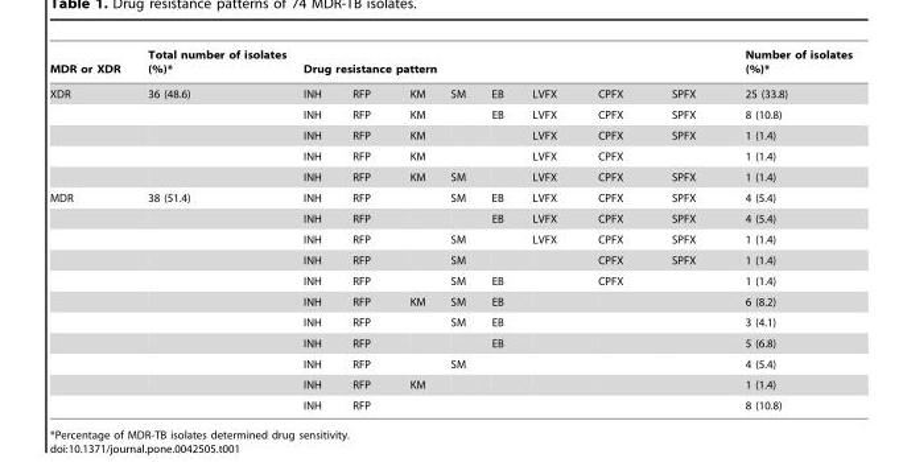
<table><thead><tr><td rowspan="2">MDR or XDR XDR</td><td rowspan="2">Total number of isolates (%)* 36 (48.6)</td><td colspan="8">Drug resistance pattern</td><td rowspan="2">Number of isolates (%)* 25 (33.8)</td></tr><tr><td>INH</td><td>RFP</td><td>KM</td><td>SM</td><td>EB</td><td>LVFX</td><td>CPFX</td><td>SPFX</td></tr></thead><tbody><tr><td></td><td></td><td>INH</td><td>RFP</td><td>KM</td><td></td><td>EB</td><td>LVFX</td><td>CPFX</td><td>SPFX</td><td>8 (10.8)</td></tr><tr><td></td><td></td><td>INH</td><td>RFP</td><td>KM</td><td></td><td></td><td>LVFX</td><td>CPFX</td><td>SPFX</td><td>1 (1.4)</td></tr><tr><td></td><td></td><td>INH</td><td>RFP</td><td>KM</td><td></td><td></td><td>LVFX</td><td>CPFX</td><td></td><td>1 (1.4)</td></tr><tr><td></td><td></td><td>INH</td><td>RFP</td><td>KM</td><td>SM</td><td></td><td>LVFX</td><td>CPFX</td><td>SPFX</td><td>1 (1.4)</td></tr><tr><td rowspan="11">MDR</td><td>38 (51.4)</td><td>INH</td><td>RFP</td><td></td><td>SM</td><td>EB</td><td>LVFX</td><td>CPFX</td><td>SPFX</td><td>4 (5.4)</td></tr><tr><td></td><td>INH</td><td>RFP</td><td></td><td></td><td>EB</td><td>LVFX</td><td>CPFX</td><td>SPFX</td><td>4 (5.4)</td></tr><tr><td></td><td>INH</td><td>RFP</td><td></td><td>SM</td><td></td><td>LVFX</td><td>CPFX</td><td>SPFX</td><td>1 (1.4)</td></tr><tr><td></td><td>INH</td><td>RFP</td><td></td><td>SM</td><td></td><td></td><td>CPFX</td><td>SPFX</td><td>1 (1.4)</td></tr><tr><td></td><td>INH</td><td>RFP</td><td></td><td>SM</td><td>EB</td><td></td><td>CPFX</td><td></td><td>1 (1.4)</td></tr><tr><td></td><td>INH</td><td>RFP</td><td>KM</td><td>SM</td><td>EB</td><td></td><td></td><td></td><td>6 (8.2)</td></tr><tr><td></td><td>INH</td><td>RFP</td><td></td><td>SM</td><td>EB</td><td></td><td></td><td></td><td>3 (4.1)</td></tr><tr><td></td><td>INH</td><td>RFP</td><td></td><td></td><td>EB</td><td></td><td></td><td></td><td>5 (6.8)</td></tr><tr><td></td><td>INH</td><td>RFP</td><td></td><td>SM</td><td></td><td></td><td></td><td></td><td>4 (5.4)</td></tr><tr><td></td><td>INH</td><td>RFP</td><td>KM</td><td></td><td></td><td></td><td></td><td></td><td>1 (1.4)</td></tr><tr><td></td><td>INH</td><td>RFP</td><td></td><td></td><td></td><td></td><td></td><td></td><td>8 (10.8)</td></tr></tbody></table>